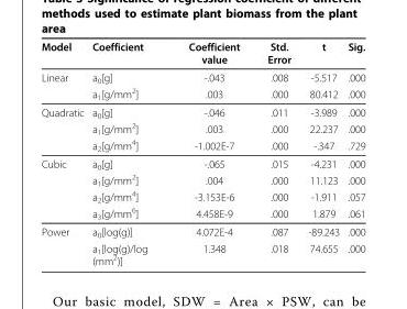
<table><thead><tr><td>Model</td><td>Coefficient</td><td>Coefficient value</td><td>Std. Error</td><td>t</td><td>Sig.</td></tr></thead><tbody><tr><td rowspan="2">Linear</td><td>a<sub>0</sub>[g]</td><td>-.043</td><td>.008</td><td>-5.517</td><td>.000</td></tr><tr><td>a<sub>1</sub>[g/mm<sup>2</sup>]</td><td>.003</td><td>.000</td><td>80.412</td><td>.000</td></tr><tr><td rowspan="3">Quadratic</td><td>a<sub>0</sub>[g]</td><td>-.046</td><td>.011</td><td>-3.989</td><td>.000</td></tr><tr><td>a<sub>1</sub>[g/mm<sup>2</sup>]</td><td>.003</td><td>.000</td><td>22.237</td><td>.000</td></tr><tr><td>a<sub>2</sub>[g/mm<sup>4</sup>]</td><td>-1.002E-7</td><td>.000</td><td>-.347</td><td>.729</td></tr><tr><td rowspan="4">Cubic</td><td>a<sub>0</sub>[g]</td><td>-.065</td><td>.015</td><td>-4.231</td><td>.000</td></tr><tr><td>a<sub>1</sub>[g/mm<sup>2</sup>]</td><td>.004</td><td>.000</td><td>11.123</td><td>.000</td></tr><tr><td>a<sub>2</sub>[g/mm<sup>4</sup>]</td><td>-3.153E-6</td><td>.000</td><td>-1.911</td><td>.057</td></tr><tr><td>a<sub>3</sub>[g/mm<sup>6</sup>]</td><td>4.458E-9</td><td>.000</td><td>1.879</td><td>.061</td></tr><tr><td rowspan="2">Power</td><td>a<sub>0</sub>[log(g)]</td><td>4.072E-4</td><td>.087</td><td>-89.243</td><td>.000</td></tr><tr><td>a<sub>1</sub>[log(g)/log (mm<sup>2</sup>)]</td><td>1.348</td><td>.018</td><td>74.655</td><td>.000</td></tr></tbody></table>